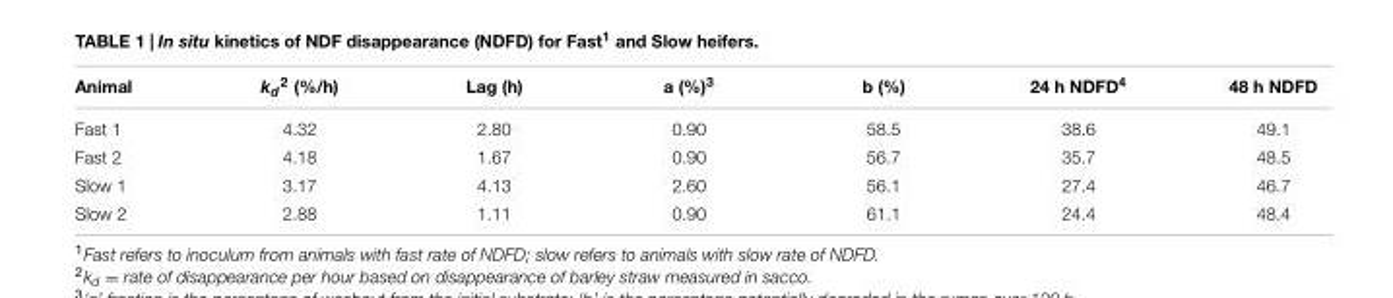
<table><thead><tr><td>Animal</td><td>k<sub>d</sub><sup>2</sup> (%/h)</td><td>Lag (h)</td><td>a (%)<sup>3</sup></td><td>b (%)</td><td>24 h NDFD<sup>4</sup></td><td>48 h NDFD</td></tr></thead><tbody><tr><td>Fast 1</td><td>4.32</td><td>2.80</td><td>0.90</td><td>58.5</td><td>38.6</td><td>49.1</td></tr><tr><td>Fast 2</td><td>4.18</td><td>1.67</td><td>0.90</td><td>56.7</td><td>35.7</td><td>48.5</td></tr><tr><td>Slow 1</td><td>3.17</td><td>4.13</td><td>2.60</td><td>56.1</td><td>27.4</td><td>46.7</td></tr><tr><td>Slow 2</td><td>2.88</td><td>1.11</td><td>0.90</td><td>61.1</td><td>24.4</td><td>48.4</td></tr></tbody></table>